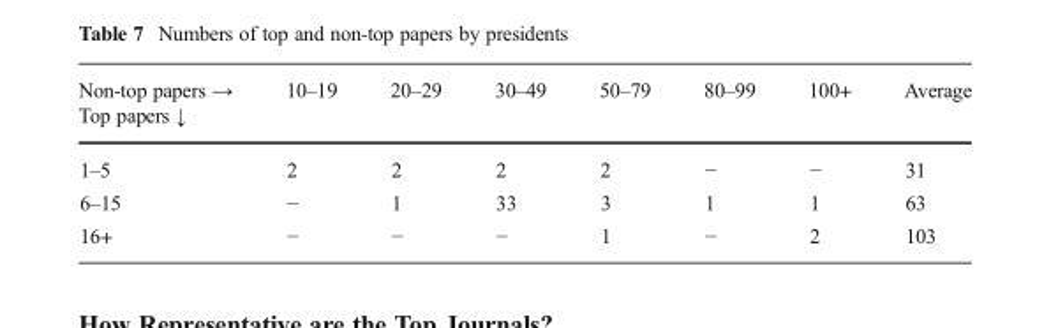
<table><thead><tr><td>Non-top papers → Top papers ↓</td><td>10–19</td><td>20–29</td><td>30–49</td><td>50–79</td><td>80–99</td><td>100+</td><td>Average</td></tr></thead><tbody><tr><td>1–5</td><td>2</td><td>2</td><td>2</td><td>2</td><td>−</td><td>−</td><td>31</td></tr><tr><td>6–15</td><td>−</td><td>1</td><td>33</td><td>3</td><td>1</td><td>1</td><td>63</td></tr><tr><td>16+</td><td>−</td><td>−</td><td>−</td><td>1</td><td>−</td><td>2</td><td>103</td></tr></tbody></table>